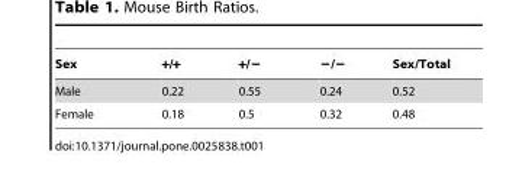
<table><thead><tr><td>Sex</td><td>+/+</td><td>+/−</td><td>−/−</td><td>Sex/Total</td></tr></thead><tbody><tr><td>Male</td><td>0.22</td><td>0.55</td><td>0.24</td><td>0.52</td></tr><tr><td>Female</td><td>0.18</td><td>0.5</td><td>0.32</td><td>0.48</td></tr></tbody></table>